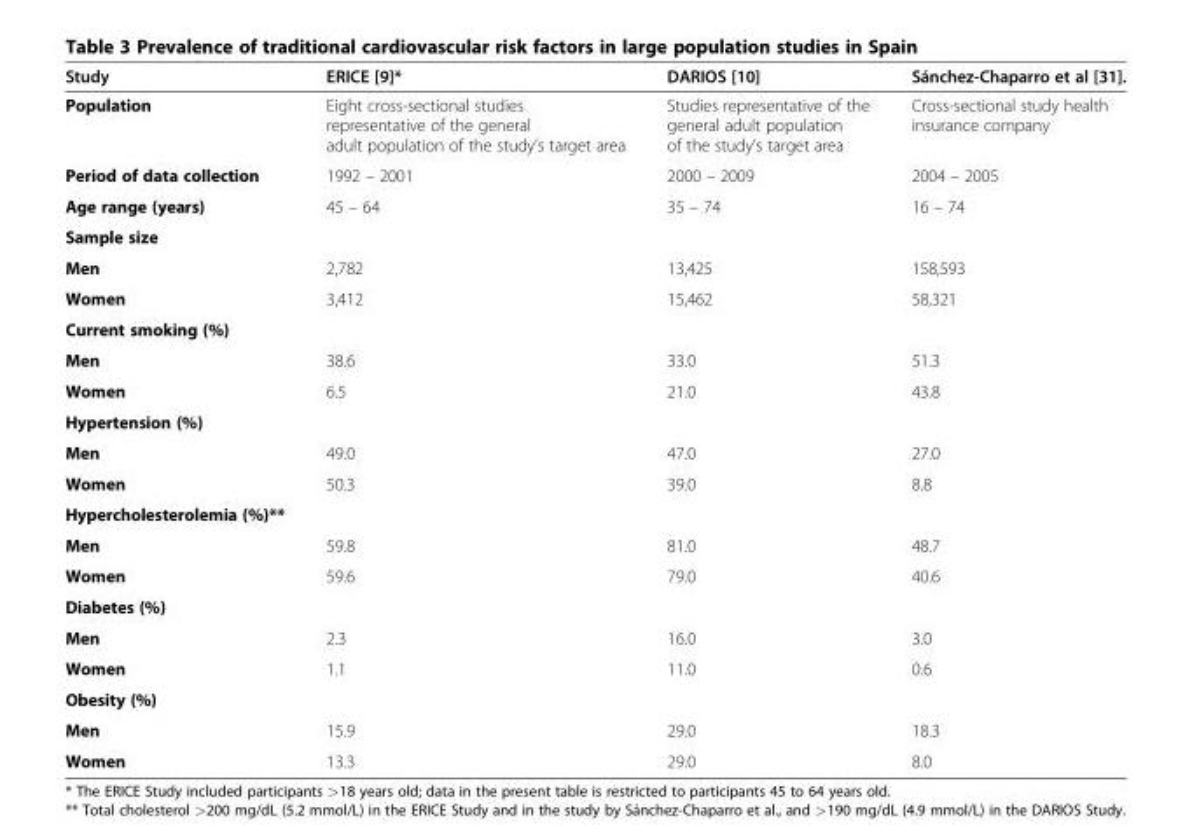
<table><thead><tr><td>Study</td><td>ERICE [9]*</td><td>DARIOS [10]</td><td>Sánchez-Chaparro et al [31].</td></tr></thead><tbody><tr><td>Population</td><td>Eight cross-sectional studies representative of the general adult population of the study’s target area</td><td>Studies representative of the general adult population of the study’s target area</td><td>Cross-sectional study health insurance company</td></tr><tr><td>Period of data collection</td><td>1992 – 2001</td><td>2000 – 2009</td><td>2004 – 2005</td></tr><tr><td>Age range (years)</td><td>45 – 64</td><td>35 – 74</td><td>16 – 74</td></tr><tr><td colspan="4">Sample size</td></tr><tr><td>Men</td><td>2,782</td><td>13,425</td><td>158,593</td></tr><tr><td>Women</td><td>3,412</td><td>15,462</td><td>58,321</td></tr><tr><td colspan="4">Current smoking (%)</td></tr><tr><td>Men</td><td>38.6</td><td>33.0</td><td>51.3</td></tr><tr><td>Women</td><td>6.5</td><td>21.0</td><td>43.8</td></tr><tr><td colspan="4">Hypertension (%)</td></tr><tr><td>Men</td><td>49.0</td><td>47.0</td><td>27.0</td></tr><tr><td>Women</td><td>50.3</td><td>39.0</td><td>8.8</td></tr><tr><td colspan="4">Hypercholesterolemia (%)**</td></tr><tr><td>Men</td><td>59.8</td><td>81.0</td><td>48.7</td></tr><tr><td>Women</td><td>59.6</td><td>79.0</td><td>40.6</td></tr><tr><td colspan="4">Diabetes (%)</td></tr><tr><td>Men</td><td>2.3</td><td>16.0</td><td>3.0</td></tr><tr><td>Women</td><td>1.1</td><td>11.0</td><td>0.6</td></tr><tr><td colspan="4">Obesity (%)</td></tr><tr><td>Men</td><td>15.9</td><td>29.0</td><td>18.3</td></tr><tr><td>Women</td><td>13.3</td><td>29.0</td><td>8.0</td></tr></tbody></table>